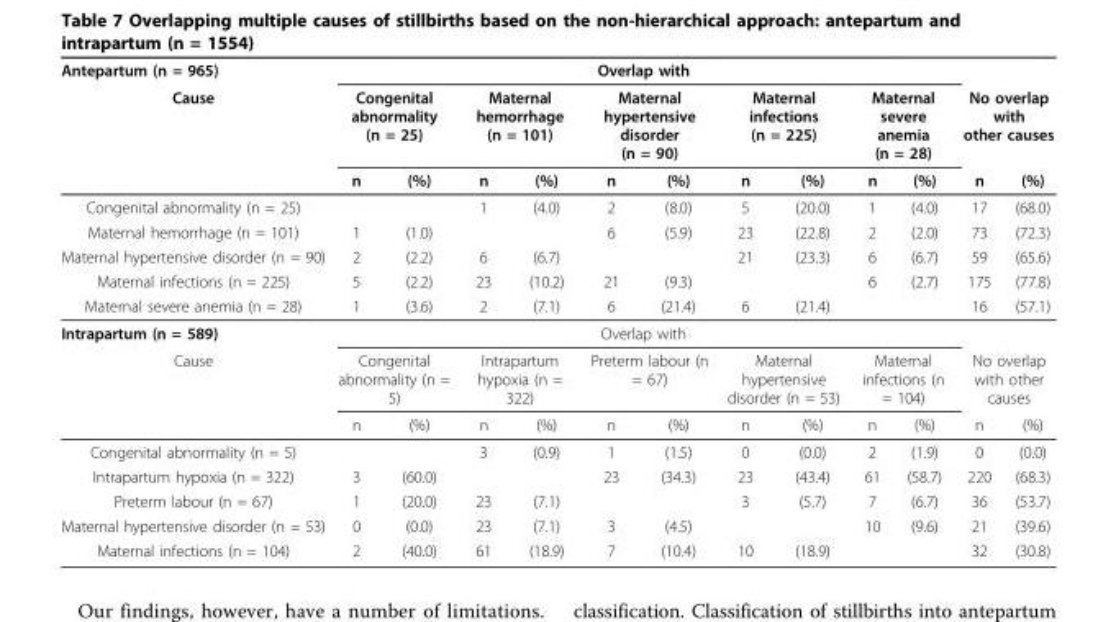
<table><thead><tr><td rowspan="3">Antepartum (n = 965) Cause</td><td colspan="10">Overlap with</td><td></td><td></td></tr><tr><td colspan="2">Congenital abnormality (n = 25)</td><td colspan="2">Maternal hemorrhage (n = 101)</td><td colspan="2">Maternal hypertensive disorder (n = 90)</td><td colspan="2">Maternal infections (n = 225)</td><td colspan="2">Maternal severe anemia (n = 28)</td><td colspan="2">No overlap with other causes</td></tr><tr><td>n</td><td>(%)</td><td>n</td><td>(%)</td><td>n</td><td>(%)</td><td>n</td><td>(%)</td><td>n</td><td>(%)</td><td>n</td><td>(%)</td></tr></thead><tbody><tr><td>Congenital abnormality (n = 25)</td><td></td><td></td><td>1</td><td>(4.0)</td><td>2</td><td>(8.0)</td><td>5</td><td>(20.0)</td><td>1</td><td>(4.0)</td><td>17</td><td>(68.0)</td></tr><tr><td>Maternal hemorrhage (n = 101)</td><td>1</td><td>(1.0)</td><td></td><td></td><td>6</td><td>(5.9)</td><td>23</td><td>(22.8)</td><td>2</td><td>(2.0)</td><td>73</td><td>(72.3)</td></tr><tr><td>Maternal hypertensive disorder (n = 90)</td><td>2</td><td>(2.2)</td><td>6</td><td>(6.7)</td><td></td><td></td><td>21</td><td>(23.3)</td><td>6</td><td>(6.7)</td><td>59</td><td>(65.6)</td></tr><tr><td>Maternal infections (n = 225)</td><td>5</td><td>(2.2)</td><td>23</td><td>(10.2)</td><td>21</td><td>(9.3)</td><td></td><td></td><td>6</td><td>(2.7)</td><td>175</td><td>(77.8)</td></tr><tr><td>Maternal severe anemia (n = 28)</td><td>1</td><td>(3.6)</td><td>2</td><td>(7.1)</td><td>6</td><td>(21.4)</td><td>6</td><td>(21.4)</td><td></td><td></td><td>16</td><td>(57.1)</td></tr><tr><td>Intrapartum (n = 589)</td><td colspan="10">Overlap with</td><td></td><td></td></tr><tr><td rowspan="2">Cause</td><td colspan="2">Congenital abnormality (n = 5)</td><td colspan="2">Intrapartum hypoxia (n = 322)</td><td colspan="2">Preterm labour (n = 67)</td><td colspan="2">Maternal hypertensive disorder (n = 53)</td><td colspan="2">Maternal infections (n = 104)</td><td colspan="2">No overlap with other causes</td></tr><tr><td>n</td><td>(%)</td><td>n</td><td>(%)</td><td>n</td><td>(%)</td><td>n</td><td>(%)</td><td>n</td><td>(%)</td><td>n</td><td>(%)</td></tr><tr><td>Congenital abnormality (n = 5)</td><td></td><td></td><td>3</td><td>(0.9)</td><td>1</td><td>(1.5)</td><td>0</td><td>(0.0)</td><td>2</td><td>(1.9)</td><td>0</td><td>(0.0)</td></tr><tr><td>Intrapartum hypoxia (n = 322)</td><td>3</td><td>(60.0)</td><td></td><td></td><td>23</td><td>(34.3)</td><td>23</td><td>(43.4)</td><td>61</td><td>(58.7)</td><td>220</td><td>(68.3)</td></tr><tr><td>Preterm labour (n = 67)</td><td>1</td><td>(20.0)</td><td>23</td><td>(7.1)</td><td></td><td></td><td>3</td><td>(5.7)</td><td>7</td><td>(6.7)</td><td>36</td><td>(53.7)</td></tr><tr><td>Maternal hypertensive disorder (n = 53)</td><td>0</td><td>(0.0)</td><td>23</td><td>(7.1)</td><td>3</td><td>(4.5)</td><td></td><td></td><td>10</td><td>(9.6)</td><td>21</td><td>(39.6)</td></tr><tr><td>Maternal infections (n = 104)</td><td>2</td><td>(40.0)</td><td>61</td><td>(18.9)</td><td>7</td><td>(10.4)</td><td>10</td><td>(18.9)</td><td></td><td></td><td>32</td><td>(30.8)</td></tr></tbody></table>